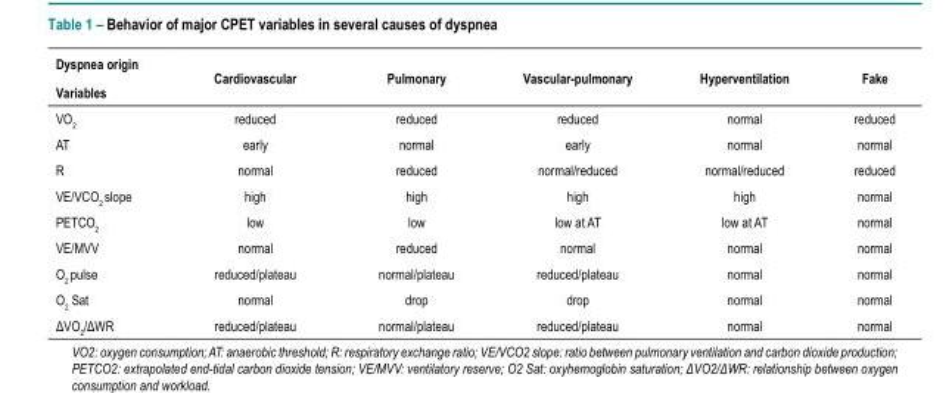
<table><thead><tr><td rowspan="2">Dyspnea origin Variables</td><td rowspan="2">Cardiovascular</td><td rowspan="2">Pulmonary</td><td rowspan="2">Vascular-pulmonary</td><td rowspan="2">Hyperventilation</td><td rowspan="2">Fake</td></tr><tr></tr></thead><tbody><tr><td>VO<sub>2</sub></td><td>reduced</td><td>reduced</td><td>reduced</td><td>normal</td><td>reduced</td></tr><tr><td>AT</td><td>early</td><td>normal</td><td>early</td><td>normal</td><td>normal</td></tr><tr><td>R</td><td>normal</td><td>reduced</td><td>normal/reduced</td><td>normal/reduced</td><td>reduced</td></tr><tr><td>VE/VCO<sub>2</sub> slope</td><td>high</td><td>high</td><td>high</td><td>high</td><td>normal</td></tr><tr><td>PETCO<sub>2</sub></td><td>low</td><td>low</td><td>low at AT</td><td>low at AT</td><td>normal</td></tr><tr><td>VE/MVV</td><td>normal</td><td>reduced</td><td>normal</td><td>normal</td><td>normal</td></tr><tr><td>O<sub>2</sub> pulse</td><td>reduced/plateau</td><td>normal/plateau</td><td>reduced/plateau</td><td>normal</td><td>normal</td></tr><tr><td>O<sub>2</sub> Sat</td><td>normal</td><td>drop</td><td>drop</td><td>normal</td><td>normal</td></tr><tr><td>ΔVO<sub>2</sub>/ΔWR</td><td>reduced/plateau</td><td>normal/plateau</td><td>reduced/plateau</td><td>normal</td><td>normal</td></tr></tbody></table>